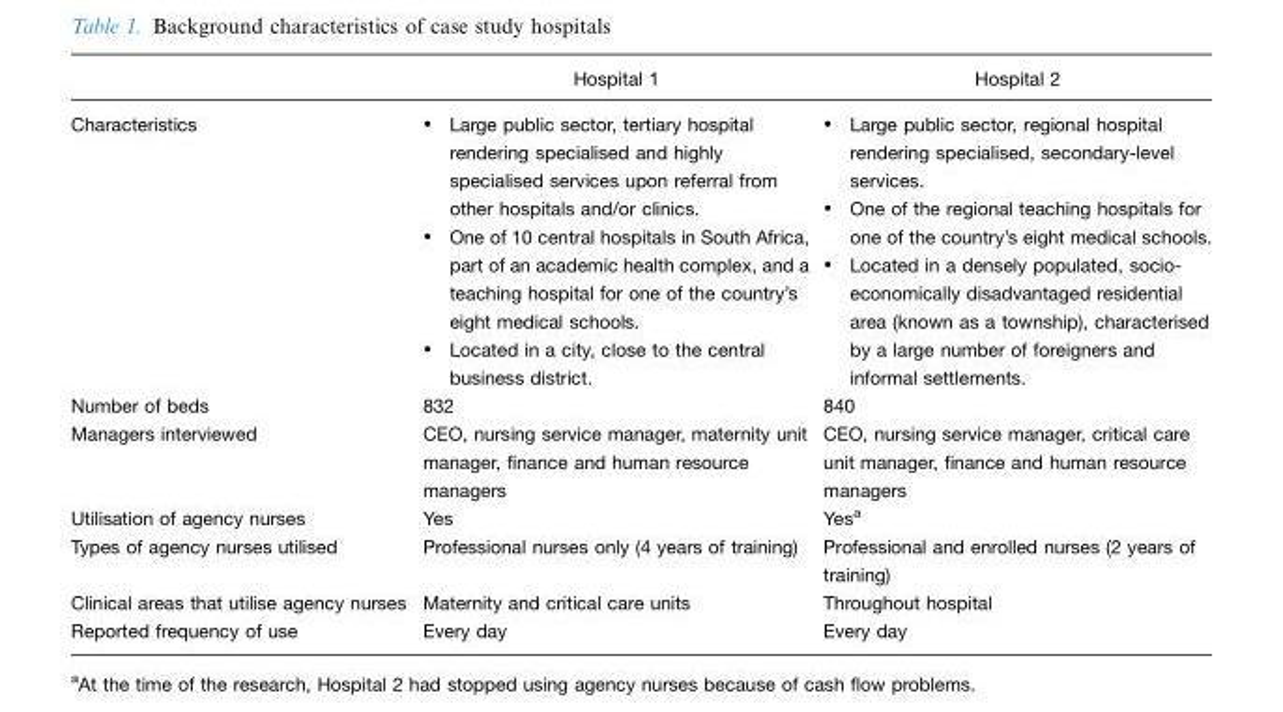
<table><thead><tr><td></td><td>Hospital 1</td><td>Hospital 2</td></tr></thead><tbody><tr><td>Characteristics</td><td>� Large public sector, tertiary hospital rendering specialised and highly specialised services upon referral from other hospitals and/or clinics. � One of 10 central hospitals in South Africa, part of an academic health complex, and a teaching hospital for one of the country’s eight medical schools. � Located in a city, close to the central business district.</td><td>� Large public sector, regional hospital rendering specialised, secondary-level services. � One of the regional teaching hospitals for one of the country’s eight medical schools. � Located in a densely populated, socio- economically disadvantaged residential area (known as a township), characterised by a large number of foreigners and informal settlements.</td></tr><tr><td>Number of beds</td><td>832</td><td>840</td></tr><tr><td>Managers interviewed</td><td>CEO, nursing service manager, maternity unit manager, finance and human resource managers</td><td>CEO, nursing service manager, critical care unit manager, finance and human resource managers</td></tr><tr><td>Utilisation of agency nurses</td><td>Yes</td><td>Yesa</td></tr><tr><td>Types of agency nurses utilised</td><td>Professional nurses only (4 years of training)</td><td>Professional and enrolled nurses (2 years of training)</td></tr><tr><td>Clinical areas that utilise agency nurses</td><td>Maternity and critical care units</td><td>Throughout hospital</td></tr><tr><td>Reported frequency of use</td><td>Every day</td><td>Every day</td></tr></tbody></table>